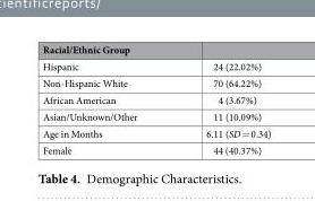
<table><thead><tr><td>Racial/Ethnic Group</td><td></td></tr></thead><tbody><tr><td>Hispanic</td><td>24 (22.02%)</td></tr><tr><td>Non-Hispanic White</td><td>70 (64.22%)</td></tr><tr><td>African American</td><td>4 (3.67%)</td></tr><tr><td>Asian/Unknown/Other</td><td>11 (10.09%)</td></tr><tr><td>Age in Months</td><td>6.11 (SD = 0.34)</td></tr><tr><td>Female</td><td>44 (40.37%)</td></tr></tbody></table>